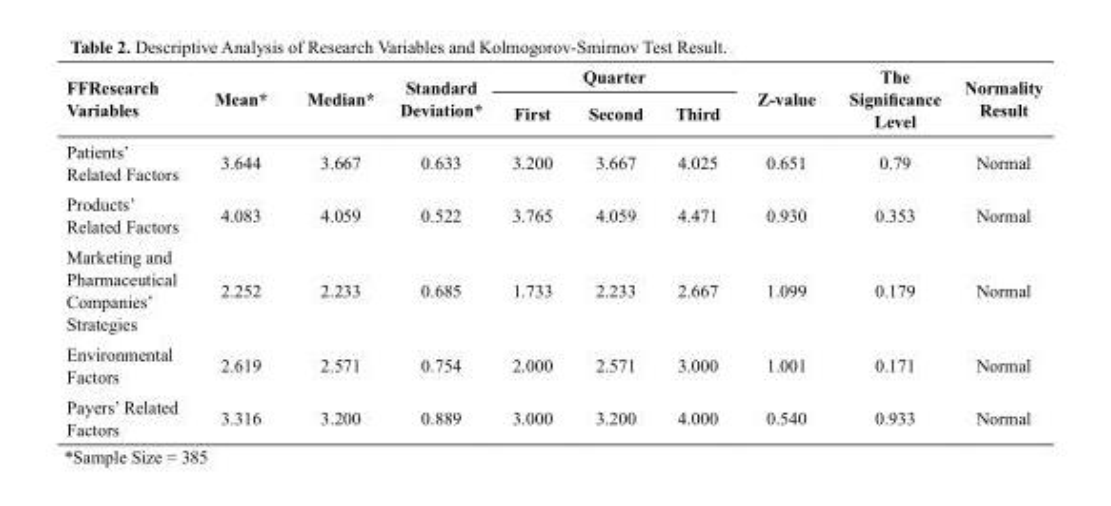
<table><thead><tr><td rowspan="2">FFResearch Variables</td><td rowspan="2">Mean*</td><td rowspan="2">Median*</td><td rowspan="2">Standard Deviation*</td><td colspan="3">Quarter</td><td rowspan="2">Z-value</td><td rowspan="2">The Significance Level</td><td rowspan="2">Normality Result</td></tr><tr><td>First</td><td>Second</td><td>Third</td></tr></thead><tbody><tr><td>Patients’ Related Factors</td><td>3.644</td><td>3.667</td><td>0.633</td><td>3.200</td><td>3.667</td><td>4.025</td><td>0.651</td><td>0.79</td><td>Normal</td></tr><tr><td>Products’ Related Factors</td><td>4.083</td><td>4.059</td><td>0.522</td><td>3.765</td><td>4.059</td><td>4.471</td><td>0.930</td><td>0.353</td><td>Normal</td></tr><tr><td>Marketing and Pharmaceutical Companies’ Strategies</td><td>2.252</td><td>2.233</td><td>0.685</td><td>1.733</td><td>2.233</td><td>2.667</td><td>1.099</td><td>0.179</td><td>Normal</td></tr><tr><td>Environmental Factors</td><td>2.619</td><td>2.571</td><td>0.754</td><td>2.000</td><td>2.571</td><td>3.000</td><td>1.001</td><td>0.171</td><td>Normal</td></tr><tr><td>Payers’ Related Factors</td><td>3.316</td><td>3.200</td><td>0.889</td><td>3.000</td><td>3.200</td><td>4.000</td><td>0.540</td><td>0.933</td><td>Normal</td></tr></tbody></table>